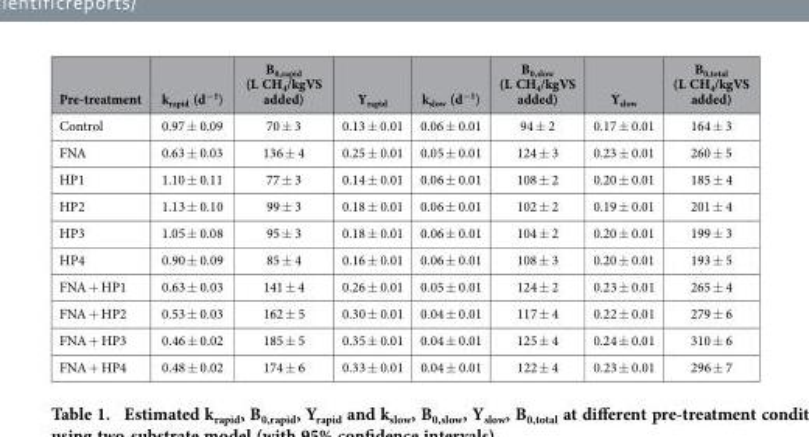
<table><thead><tr><td>Pre-treatment</td><td>k<sub>rapid</sub> (d<sup>−1</sup>)</td><td>B<sub>0,rapid</sub> (L CH<sub>4</sub>/kgVS added)</td><td>Y<sub>rapid</sub></td><td>k<sub>slow</sub> (d<sup>−1</sup>)</td><td>B<sub>0,slow</sub> (L CH<sub>4</sub>/kgVS added)</td><td>Y<sub>slow</sub></td><td>B<sub>0,total</sub> (L CH<sub>4</sub>/kgVS added)</td></tr></thead><tbody><tr><td>Control</td><td>0.97 ± 0.09</td><td>70 ± 3</td><td>0.13 ± 0.01</td><td>0.06 ± 0.01</td><td>94 ± 2</td><td>0.17 ± 0.01</td><td>164 ± 3</td></tr><tr><td>FNA</td><td>0.63 ± 0.03</td><td>136 ± 4</td><td>0.25 ± 0.01</td><td>0.05 ± 0.01</td><td>124 ± 3</td><td>0.23 ± 0.01</td><td>260 ± 5</td></tr><tr><td>HP1</td><td>1.10 ± 0.11</td><td>77 ± 3</td><td>0.14 ± 0.01</td><td>0.06 ± 0.01</td><td>108 ± 2</td><td>0.20 ± 0.01</td><td>185 ± 4</td></tr><tr><td>HP2</td><td>1.13 ± 0.10</td><td>99 ± 3</td><td>0.18 ± 0.01</td><td>0.06 ± 0.01</td><td>102 ± 2</td><td>0.19 ± 0.01</td><td>201 ± 4</td></tr><tr><td>HP3</td><td>1.05 ± 0.08</td><td>95 ± 3</td><td>0.18 ± 0.01</td><td>0.06 ± 0.01</td><td>104 ± 2</td><td>0.20 ± 0.01</td><td>199 ± 3</td></tr><tr><td>HP4</td><td>0.90 ± 0.09</td><td>85 ± 4</td><td>0.16 ± 0.01</td><td>0.06 ± 0.01</td><td>108 ± 3</td><td>0.20 ± 0.01</td><td>193 ± 5</td></tr><tr><td>FNA + HP1</td><td>0.63 ± 0.03</td><td>141 ± 4</td><td>0.26 ± 0.01</td><td>0.05 ± 0.01</td><td>124 ± 2</td><td>0.23 ± 0.01</td><td>265 ± 4</td></tr><tr><td>FNA + HP2</td><td>0.53 ± 0.03</td><td>162 ± 5</td><td>0.30 ± 0.01</td><td>0.04 ± 0.01</td><td>117 ± 4</td><td>0.22 ± 0.01</td><td>279 ± 6</td></tr><tr><td>FNA + HP3</td><td>0.46 ± 0.02</td><td>185 ± 5</td><td>0.35 ± 0.01</td><td>0.04 ± 0.01</td><td>125 ± 4</td><td>0.24 ± 0.01</td><td>310 ± 6</td></tr><tr><td>FNA + HP4</td><td>0.48 ± 0.02</td><td>174 ± 6</td><td>0.33 ± 0.01</td><td>0.04 ± 0.01</td><td>122 ± 4</td><td>0.23 ± 0.01</td><td>296 ± 7</td></tr></tbody></table>